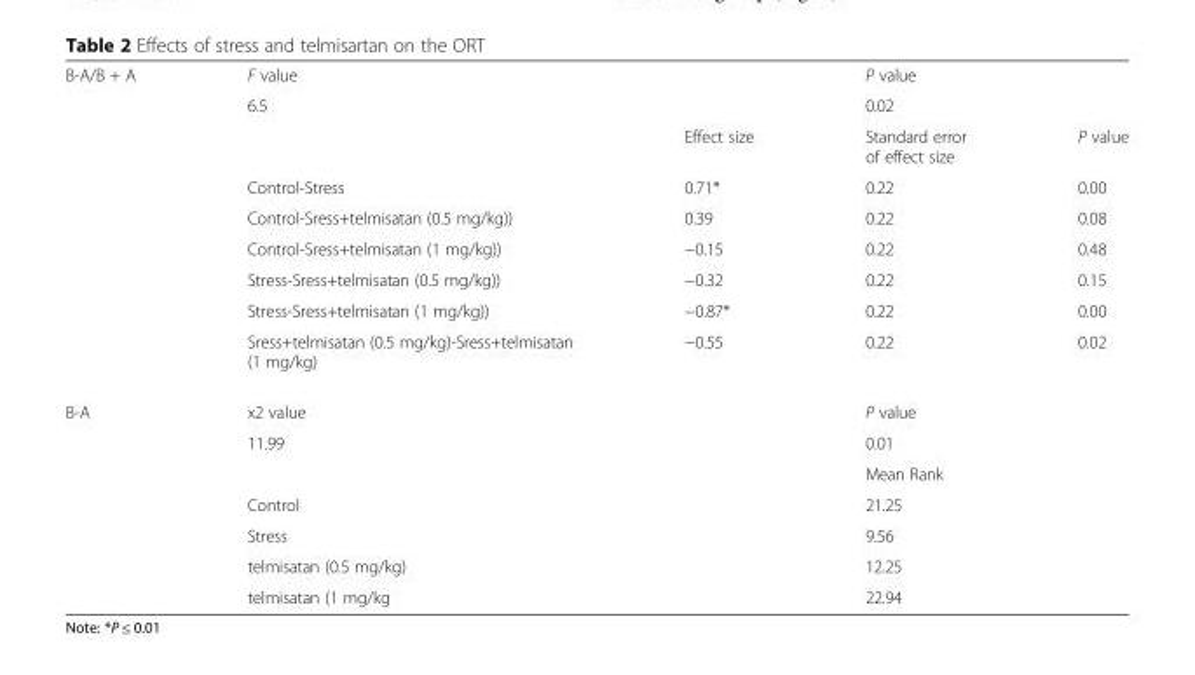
<table><tbody><tr><td rowspan="9">B-A/B + A</td><td colspan="2">F value</td><td colspan="2">P value</td></tr><tr><td>6.5</td><td></td><td colspan="2">0.02</td></tr><tr><td></td><td>Effect size</td><td>Standard error of effect size</td><td>P value</td></tr><tr><td>Control-Stress</td><td>0.71*</td><td>0.22</td><td>0.00</td></tr><tr><td>Control-Sress+telmisatan (0.5 mg/kg))</td><td>0.39</td><td>0.22</td><td>0.08</td></tr><tr><td>Control-Sress+telmisatan (1 mg/kg))</td><td>−0.15</td><td>0.22</td><td>0.48</td></tr><tr><td>Stress-Sress+telmisatan (0.5 mg/kg))</td><td>−0.32</td><td>0.22</td><td>0.15</td></tr><tr><td>Stress-Sress+telmisatan (1 mg/kg))</td><td>−0.87*</td><td>0.22</td><td>0.00</td></tr><tr><td>Sress+telmisatan (0.5 mg/kg)-Sress+telmisatan (1 mg/kg)</td><td>−0.55</td><td>0.22</td><td>0.02</td></tr><tr><td rowspan="7">B-A</td><td colspan="2">x2 value</td><td colspan="2">P value</td></tr><tr><td>11.99</td><td></td><td>0.01</td><td></td></tr><tr><td></td><td></td><td>Mean Rank</td><td></td></tr><tr><td>Control</td><td></td><td>21.25</td><td></td></tr><tr><td>Stress</td><td></td><td>9.56</td><td></td></tr><tr><td>telmisatan (0.5 mg/kg)</td><td></td><td>12.25</td><td></td></tr><tr><td>telmisatan (1 mg/kg</td><td></td><td>22.94</td><td></td></tr></tbody></table>